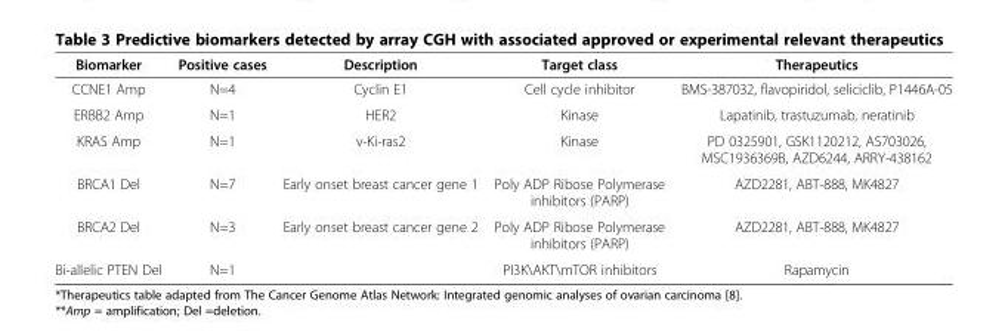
<table><thead><tr><td>Biomarker</td><td>Positive cases</td><td>Description</td><td>Target class</td><td>Therapeutics</td></tr></thead><tbody><tr><td>CCNE1 Amp</td><td>N=4</td><td>Cyclin E1</td><td>Cell cycle inhibitor</td><td>BMS-387032, flavopiridol, seliciclib, P1446A-05</td></tr><tr><td>ERBB2 Amp</td><td>N=1</td><td>HER2</td><td>Kinase</td><td>Lapatinib, trastuzumab, neratinib</td></tr><tr><td>KRAS Amp</td><td>N=1</td><td>v-Ki-ras2</td><td>Kinase</td><td>PD 0325901, GSK1120212, AS703026, MSC1936369B, AZD6244, ARRY-438162</td></tr><tr><td>BRCA1 Del</td><td>N=7</td><td>Early onset breast cancer gene 1</td><td>Poly ADP Ribose Polymerase inhibitors (PARP)</td><td>AZD2281, ABT-888, MK4827</td></tr><tr><td>BRCA2 Del</td><td>N=3</td><td>Early onset breast cancer gene 2</td><td>Poly ADP Ribose Polymerase inhibitors (PARP)</td><td>AZD2281, ABT-888, MK4827</td></tr><tr><td>Bi-allelic PTEN Del</td><td>N=1</td><td></td><td>PI3K\AKT\mTOR inhibitors</td><td>Rapamycin</td></tr></tbody></table>